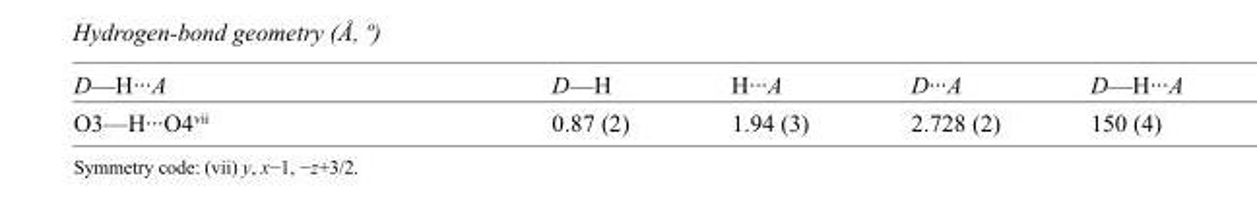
<table><tbody><tr><td>D—H···A</td><td>D—H</td><td>H···A</td><td>D···A</td><td>D—H···A</td></tr><tr><td>O3—H···O4<sup>vii</sup></td><td>0.87 (2)</td><td>1.94 (3)</td><td>2.728 (2)</td><td>150 (4)</td></tr></tbody></table>